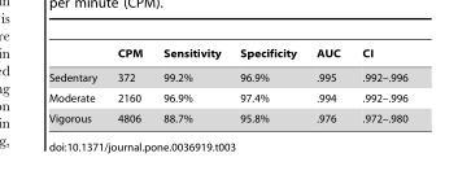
<table><thead><tr><td></td><td>CPM</td><td>Sensitivity</td><td>Specificity</td><td>AUC</td><td>CI</td></tr></thead><tbody><tr><td>Sedentary</td><td>372</td><td>99.2%</td><td>96.9%</td><td>.995</td><td>.992–.996</td></tr><tr><td>Moderate</td><td>2160</td><td>96.9%</td><td>97.4%</td><td>.994</td><td>.992–.996</td></tr><tr><td>Vigorous</td><td>4806</td><td>88.7%</td><td>95.8%</td><td>.976</td><td>.972–.980</td></tr></tbody></table>